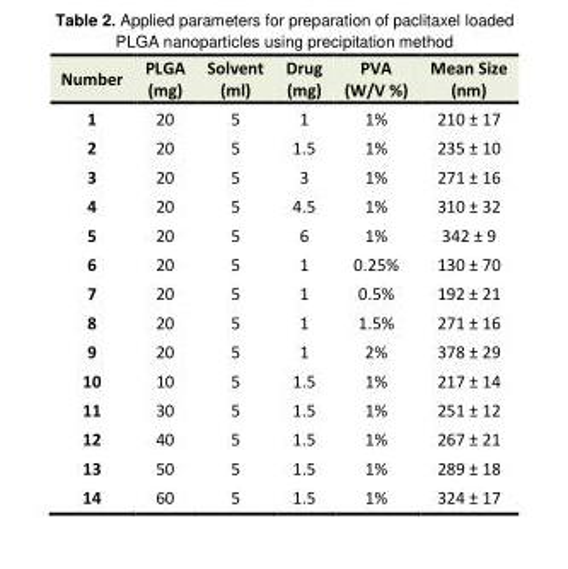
<table><tbody><tr><td>Number</td><td>PLGA (mg)</td><td>Solvent (ml)</td><td>Drug (mg)</td><td>PVA (W/V %)</td><td>Mean Size (nm)</td></tr><tr><td>1</td><td>20</td><td>5</td><td>1</td><td>1%</td><td>210 ± 17</td></tr><tr><td>2</td><td>20</td><td>5</td><td>1.5</td><td>1%</td><td>235 ± 10</td></tr><tr><td>3</td><td>20</td><td>5</td><td>3</td><td>1%</td><td>271 ± 16</td></tr><tr><td>4</td><td>20</td><td>5</td><td>4.5</td><td>1%</td><td>310 ± 32</td></tr><tr><td>5</td><td>20</td><td>5</td><td>6</td><td>1%</td><td>342 ± 9</td></tr><tr><td>6</td><td>20</td><td>5</td><td>1</td><td>0.25%</td><td>130 ± 70</td></tr><tr><td>7</td><td>20</td><td>5</td><td>1</td><td>0.5%</td><td>192 ± 21</td></tr><tr><td>8</td><td>20</td><td>5</td><td>1</td><td>1.5%</td><td>271 ± 16</td></tr><tr><td>9</td><td>20</td><td>5</td><td>1</td><td>2%</td><td>378 ± 29</td></tr><tr><td>10</td><td>10</td><td>5</td><td>1.5</td><td>1%</td><td>217 ± 14</td></tr><tr><td>11</td><td>30</td><td>5</td><td>1.5</td><td>1%</td><td>251 ± 12</td></tr><tr><td>12</td><td>40</td><td>5</td><td>1.5</td><td>1%</td><td>267 ± 21</td></tr><tr><td>13</td><td>50</td><td>5</td><td>1.5</td><td>1%</td><td>289 ± 18</td></tr><tr><td>14</td><td>60</td><td>5</td><td>1.5</td><td>1%</td><td>324 ± 17</td></tr></tbody></table>